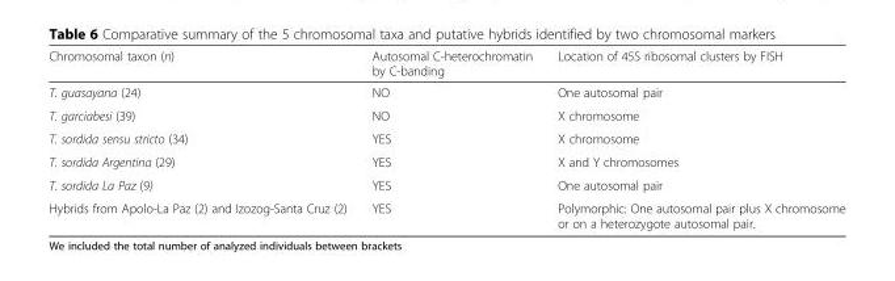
<table><thead><tr><td>Chromosomal taxon (n)</td><td>Autosomal C-heterochromatin by C-banding</td><td>Location of 45S ribosomal clusters by FISH</td></tr></thead><tbody><tr><td>T. guasayana (24)</td><td>NO</td><td>One autosomal pair</td></tr><tr><td>T. garciabesi (39)</td><td>NO</td><td>X chromosome</td></tr><tr><td>T. sordida sensu stricto (34)</td><td>YES</td><td>X chromosome</td></tr><tr><td>T. sordida Argentina (29)</td><td>YES</td><td>X and Y chromosomes</td></tr><tr><td>T. sordida La Paz (9)</td><td>YES</td><td>One autosomal pair</td></tr><tr><td>Hybrids from Apolo-La Paz (2) and Izozog-Santa Cruz (2)</td><td>YES</td><td>Polymorphic: One autosomal pair plus X chromosome or on a heterozygote autosomal pair.</td></tr></tbody></table>